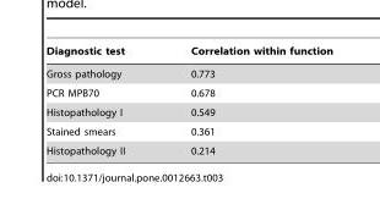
<table><thead><tr><td>Diagnostic test</td><td>Correlation within function</td></tr></thead><tbody><tr><td>Gross pathology</td><td>0.773</td></tr><tr><td>PCR MPB70</td><td>0.678</td></tr><tr><td>Histopathology I</td><td>0.549</td></tr><tr><td>Stained smears</td><td>0.361</td></tr><tr><td>Histopathology II</td><td>0.214</td></tr></tbody></table>